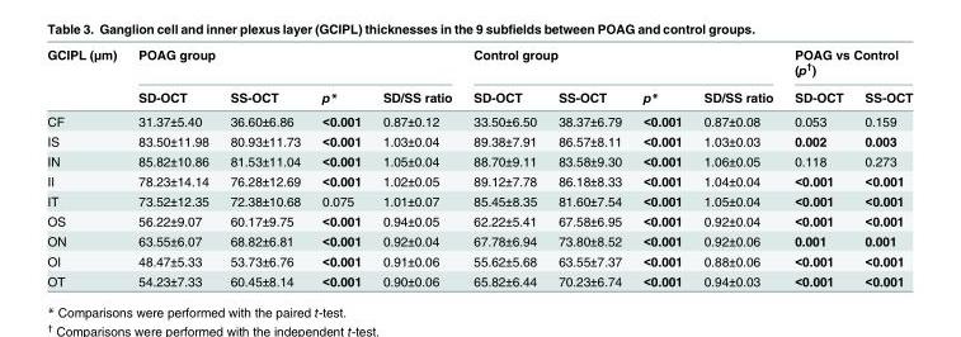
<table><thead><tr><td rowspan="2">GCIPL (μm)</td><td colspan="4">POAG group</td><td colspan="4">Control group</td><td colspan="2">POAG vs Control (p<sup>†</sup>)</td></tr><tr><td>SD-OCT</td><td>SS-OCT</td><td>p*</td><td>SD/SS ratio</td><td>SD-OCT</td><td>SS-OCT</td><td>p*</td><td>SD/SS ratio</td><td>SD-OCT</td><td>SS-OCT</td></tr></thead><tbody><tr><td>CF</td><td>31.37±5.40</td><td>36.60±6.86</td><td>&lt;0.001</td><td>0.87±0.12</td><td>33.50±6.50</td><td>38.37±6.79</td><td>&lt;0.001</td><td>0.87±0.08</td><td>0.053</td><td>0.159</td></tr><tr><td>IS</td><td>83.50±11.98</td><td>80.93±11.73</td><td>&lt;0.001</td><td>1.03±0.04</td><td>89.38±7.91</td><td>86.57±8.11</td><td>&lt;0.001</td><td>1.03±0.03</td><td>0.002</td><td>0.003</td></tr><tr><td>IN</td><td>85.82±10.86</td><td>81.53±11.04</td><td>&lt;0.001</td><td>1.05±0.04</td><td>88.70±9.11</td><td>83.58±9.30</td><td>&lt;0.001</td><td>1.06±0.05</td><td>0.118</td><td>0.273</td></tr><tr><td>II</td><td>78.23±14.14</td><td>76.28±12.69</td><td>&lt;0.001</td><td>1.02±0.05</td><td>89.12±7.78</td><td>86.18±8.33</td><td>&lt;0.001</td><td>1.04±0.04</td><td>&lt;0.001</td><td>&lt;0.001</td></tr><tr><td>IT</td><td>73.52±12.35</td><td>72.38±10.68</td><td>0.075</td><td>1.01±0.07</td><td>85.45±8.35</td><td>81.60±7.54</td><td>&lt;0.001</td><td>1.05±0.04</td><td>&lt;0.001</td><td>&lt;0.001</td></tr><tr><td>OS</td><td>56.22±9.07</td><td>60.17±9.75</td><td>&lt;0.001</td><td>0.94±0.05</td><td>62.22±5.41</td><td>67.58±6.95</td><td>&lt;0.001</td><td>0.92±0.04</td><td>&lt;0.001</td><td>&lt;0.001</td></tr><tr><td>ON</td><td>63.55±6.07</td><td>68.82±6.81</td><td>&lt;0.001</td><td>0.92±0.04</td><td>67.78±6.94</td><td>73.80±8.52</td><td>&lt;0.001</td><td>0.92±0.06</td><td>0.001</td><td>0.001</td></tr><tr><td>OI</td><td>48.47±5.33</td><td>53.73±6.76</td><td>&lt;0.001</td><td>0.91±0.06</td><td>55.62±5.68</td><td>63.55±7.37</td><td>&lt;0.001</td><td>0.88±0.06</td><td>&lt;0.001</td><td>&lt;0.001</td></tr><tr><td>OT</td><td>54.23±7.33</td><td>60.45±8.14</td><td>&lt;0.001</td><td>0.90±0.06</td><td>65.82±6.44</td><td>70.23±6.74</td><td>&lt;0.001</td><td>0.94±0.03</td><td>&lt;0.001</td><td>&lt;0.001</td></tr></tbody></table>